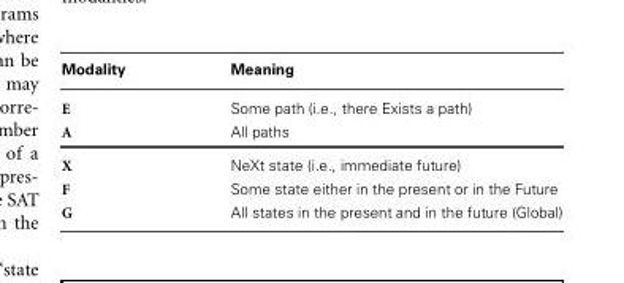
<table><thead><tr><td>Modality</td><td>Meaning</td></tr></thead><tbody><tr><td>E</td><td>Some path (i.e., there Exists a path)</td></tr><tr><td>A</td><td>All paths</td></tr><tr><td>X</td><td>NeXt state (i.e., immediate future)</td></tr><tr><td>F</td><td>Some state either in the present or in the Future</td></tr><tr><td>G</td><td>All states in the present and in the future (Global)</td></tr></tbody></table>